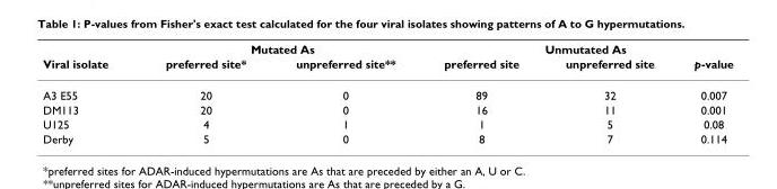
<table><thead><tr><td rowspan="2">Viral isolate</td><td colspan="2">Mutated As</td><td colspan="3">Unmutated As</td></tr><tr><td>preferred site*</td><td>unpreferred site**</td><td>preferred site</td><td>unpreferred site</td><td>p-value</td></tr></thead><tbody><tr><td>A3 E55</td><td>20</td><td>0</td><td>89</td><td>32</td><td>0.007</td></tr><tr><td>DM113</td><td>20</td><td>0</td><td>16</td><td>11</td><td>0.001</td></tr><tr><td>U125</td><td>4</td><td>1</td><td>1</td><td>5</td><td>0.08</td></tr><tr><td>Derby</td><td>5</td><td>0</td><td>8</td><td>7</td><td>0.114</td></tr></tbody></table>